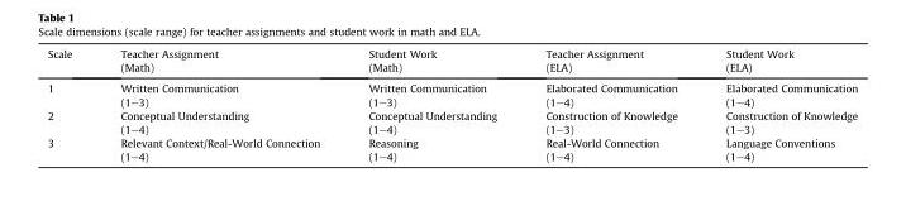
<table><thead><tr><td>Scale</td><td>Teacher Assignment (Math)</td><td>Student Work (Math)</td><td>Teacher Assignment (ELA)</td><td>Student Work (ELA)</td></tr></thead><tbody><tr><td>1</td><td>Written Communication (1–3)</td><td>Written Communication (1–3)</td><td>Elaborated Communication (1–4)</td><td>Elaborated Communication (1–4)</td></tr><tr><td>2</td><td>Conceptual Understanding (1–4)</td><td>Conceptual Understanding (1–4)</td><td>Construction of Knowledge (1–3)</td><td>Construction of Knowledge (1–3)</td></tr><tr><td>3</td><td>Relevant Context/Real-World Connection (1–4)</td><td>Reasoning (1–4)</td><td>Real-World Connection (1–4)</td><td>Language Conventions (1–4)</td></tr></tbody></table>